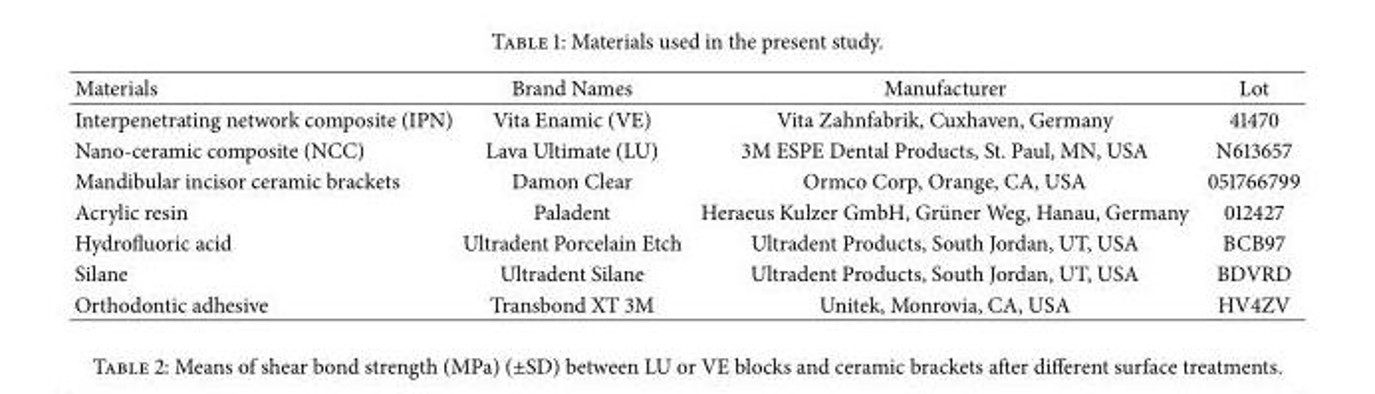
<table><thead><tr><td>Materials</td><td>Brand Names</td><td>Manufacturer</td><td>Lot</td></tr></thead><tbody><tr><td>Interpenetrating network composite (IPN)</td><td>Vita Enamic (VE)</td><td>Vita Zahnfabrik, Cuxhaven, Germany</td><td>41470</td></tr><tr><td>Nano-ceramic composite (NCC)</td><td>Lava Ultimate (LU)</td><td>3M ESPE Dental Products, St. Paul, MN, USA</td><td>N613657</td></tr><tr><td>Mandibular incisor ceramic brackets</td><td>Damon Clear</td><td>Ormco Corp, Orange, CA, USA</td><td>051766799</td></tr><tr><td>Acrylic resin</td><td>Paladent</td><td>Heraeus Kulzer GmbH, Gr¨uner Weg, Hanau, Germany</td><td>012427</td></tr><tr><td>Hydrofluoric acid</td><td>Ultradent Porcelain Etch</td><td>Ultradent Products, South Jordan, UT, USA</td><td>BCB97</td></tr><tr><td>Silane</td><td>Ultradent Silane</td><td>Ultradent Products, South Jordan, UT, USA</td><td>BDVRD</td></tr><tr><td>Orthodontic adhesive</td><td>Transbond XT 3M</td><td>Unitek, Monrovia, CA, USA</td><td>HV4ZV</td></tr></tbody></table>